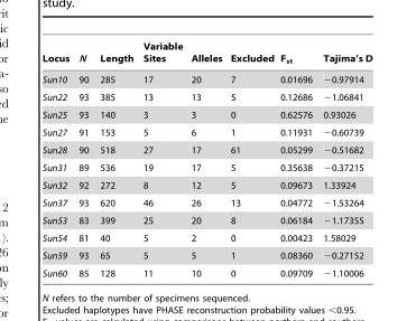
<table><thead><tr><td>Locus</td><td>N</td><td>Length</td><td>Variable Sites</td><td>Alleles</td><td>Excluded</td><td>F<sub>st</sub></td><td>Tajima’s D</td></tr></thead><tbody><tr><td>Sun10</td><td>90</td><td>285</td><td>17</td><td>20</td><td>7</td><td>0.01696</td><td>−0.97914</td></tr><tr><td>Sun22</td><td>93</td><td>385</td><td>13</td><td>13</td><td>5</td><td>0.12686</td><td>−1.06841</td></tr><tr><td>Sun25</td><td>93</td><td>140</td><td>3</td><td>3</td><td>0</td><td>0.62576</td><td>0.93026</td></tr><tr><td>Sun27</td><td>91</td><td>153</td><td>5</td><td>6</td><td>1</td><td>0.11931</td><td>−0.60739</td></tr><tr><td>Sun28</td><td>90</td><td>518</td><td>27</td><td>17</td><td>61</td><td>0.05299</td><td>−0.51682</td></tr><tr><td>Sun31</td><td>89</td><td>536</td><td>19</td><td>17</td><td>5</td><td>0.35638</td><td>−0.37215</td></tr><tr><td>Sun32</td><td>92</td><td>272</td><td>8</td><td>12</td><td>5</td><td>0.09673</td><td>1.33924</td></tr><tr><td>Sun37</td><td>93</td><td>620</td><td>46</td><td>26</td><td>13</td><td>0.04772</td><td>−1.53264</td></tr><tr><td>Sun53</td><td>83</td><td>399</td><td>25</td><td>20</td><td>8</td><td>0.06184</td><td>−1.17355</td></tr><tr><td>Sun54</td><td>81</td><td>40</td><td>5</td><td>2</td><td>0</td><td>0.00423</td><td>1.58029</td></tr><tr><td>Sun59</td><td>93</td><td>65</td><td>5</td><td>5</td><td>1</td><td>0.08360</td><td>−0.27152</td></tr><tr><td>Sun60</td><td>85</td><td>128</td><td>11</td><td>10</td><td>0</td><td>0.09709</td><td>−1.10006</td></tr></tbody></table>